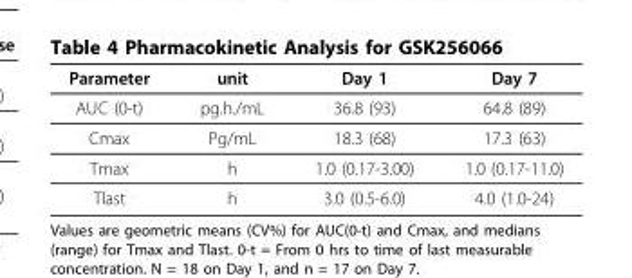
<table><thead><tr><td>Parameter</td><td>unit</td><td>Day 1</td><td>Day 7</td></tr></thead><tbody><tr><td>AUC (0-t)</td><td>pg.h./mL</td><td>36.8 (93)</td><td>64.8 (89)</td></tr><tr><td>Cmax</td><td>Pg/mL</td><td>18.3 (68)</td><td>17.3 (63)</td></tr><tr><td>Tmax</td><td>h</td><td>1.0 (0.17-3.00)</td><td>1.0 (0.17-11.0)</td></tr><tr><td>Tlast</td><td>h</td><td>3.0 (0.5-6.0)</td><td>4.0 (1.0-24)</td></tr></tbody></table>